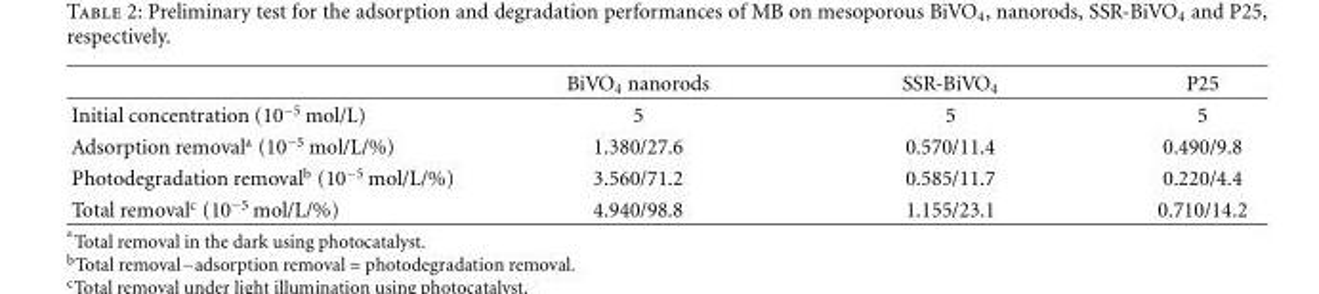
<table><thead><tr><td></td><td>BiVO<sub>4</sub> nanorods</td><td>SSR-BiVO<sub>4</sub></td><td>P25</td></tr></thead><tbody><tr><td>Initial concentration (10<sup>−5</sup> mol/L)</td><td>5</td><td>5</td><td>5</td></tr><tr><td>Adsorption removal<sup>a</sup> (10<sup>−5</sup> mol/L/%)</td><td>1.380/27.6</td><td>0.570/11.4</td><td>0.490/9.8</td></tr><tr><td>Photodegradation removal<sup>b</sup> (10<sup>−5</sup> mol/L/%)</td><td>3.560/71.2</td><td>0.585/11.7</td><td>0.220/4.4</td></tr><tr><td>Total removal<sup>c</sup> (10<sup>−5</sup> mol/L/%)</td><td>4.940/98.8</td><td>1.155/23.1</td><td>0.710/14.2</td></tr></tbody></table>